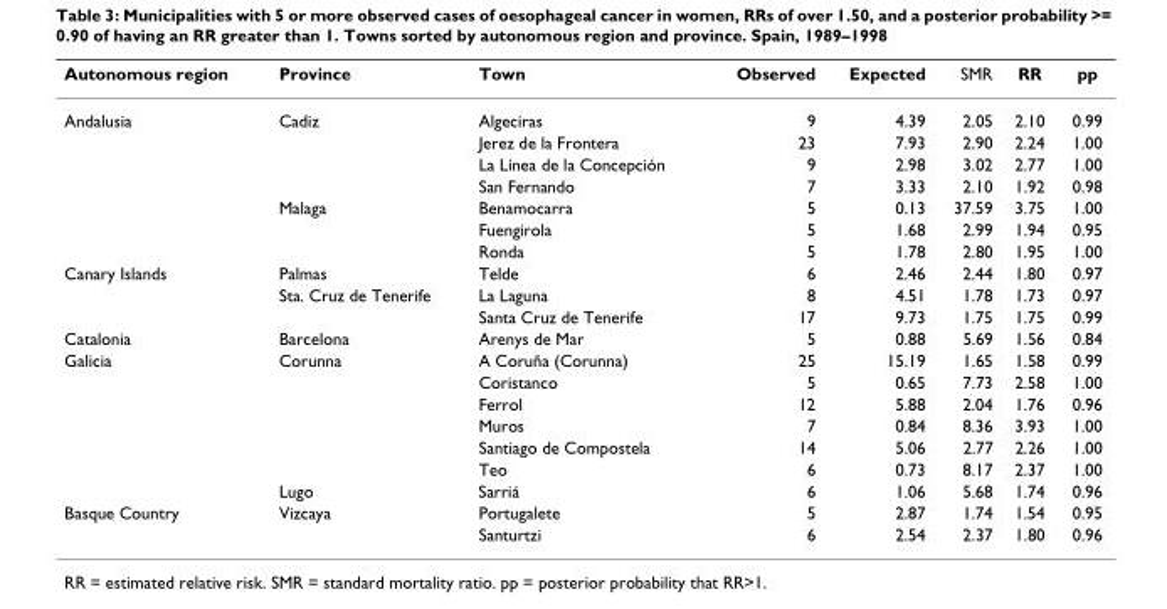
<table><thead><tr><td>Autonomous region</td><td>Province</td><td>Town</td><td>Observed</td><td>Expected</td><td>SMR</td><td>RR</td><td>pp</td></tr></thead><tbody><tr><td rowspan="7">Andalusia</td><td>Cadiz</td><td>Algeciras</td><td>9</td><td>4.39</td><td>2.05</td><td>2.10</td><td>0.99</td></tr><tr><td></td><td>Jerez de la Frontera</td><td>23</td><td>7.93</td><td>2.90</td><td>2.24</td><td>1.00</td></tr><tr><td></td><td>La Línea de la Concepción</td><td>9</td><td>2.98</td><td>3.02</td><td>2.77</td><td>1.00</td></tr><tr><td></td><td>San Fernando</td><td>7</td><td>3.33</td><td>2.10</td><td>1.92</td><td>0.98</td></tr><tr><td>Malaga</td><td>Benamocarra</td><td>5</td><td>0.13</td><td>37.59</td><td>3.75</td><td>1.00</td></tr><tr><td></td><td>Fuengirola</td><td>5</td><td>1.68</td><td>2.99</td><td>1.94</td><td>0.95</td></tr><tr><td></td><td>Ronda</td><td>5</td><td>1.78</td><td>2.80</td><td>1.95</td><td>1.00</td></tr><tr><td rowspan="3">Canary Islands</td><td>Palmas</td><td>Telde</td><td>6</td><td>2.46</td><td>2.44</td><td>1.80</td><td>0.97</td></tr><tr><td>Sta. Cruz de Tenerife</td><td>La Laguna</td><td>8</td><td>4.51</td><td>1.78</td><td>1.73</td><td>0.97</td></tr><tr><td></td><td>Santa Cruz de Tenerife</td><td>17</td><td>9.73</td><td>1.75</td><td>1.75</td><td>0.99</td></tr><tr><td>Catalonia</td><td>Barcelona</td><td>Arenys de Mar</td><td>5</td><td>0.88</td><td>5.69</td><td>1.56</td><td>0.84</td></tr><tr><td rowspan="7">Galicia</td><td>Corunna</td><td>A Coruña (Corunna)</td><td>25</td><td>15.19</td><td>1.65</td><td>1.58</td><td>0.99</td></tr><tr><td></td><td>Coristanco</td><td>5</td><td>0.65</td><td>7.73</td><td>2.58</td><td>1.00</td></tr><tr><td></td><td>Ferrol</td><td>12</td><td>5.88</td><td>2.04</td><td>1.76</td><td>0.96</td></tr><tr><td></td><td>Muros</td><td>7</td><td>0.84</td><td>8.36</td><td>3.93</td><td>1.00</td></tr><tr><td></td><td>Santiago de Compostela</td><td>14</td><td>5.06</td><td>2.77</td><td>2.26</td><td>1.00</td></tr><tr><td></td><td>Teo</td><td>6</td><td>0.73</td><td>8.17</td><td>2.37</td><td>1.00</td></tr><tr><td>Lugo</td><td>Sarriá</td><td>6</td><td>1.06</td><td>5.68</td><td>1.74</td><td>0.96</td></tr><tr><td rowspan="2">Basque Country</td><td>Vizcaya</td><td>Portugalete</td><td>5</td><td>2.87</td><td>1.74</td><td>1.54</td><td>0.95</td></tr><tr><td></td><td>Santurtzi</td><td>6</td><td>2.54</td><td>2.37</td><td>1.80</td><td>0.96</td></tr></tbody></table>